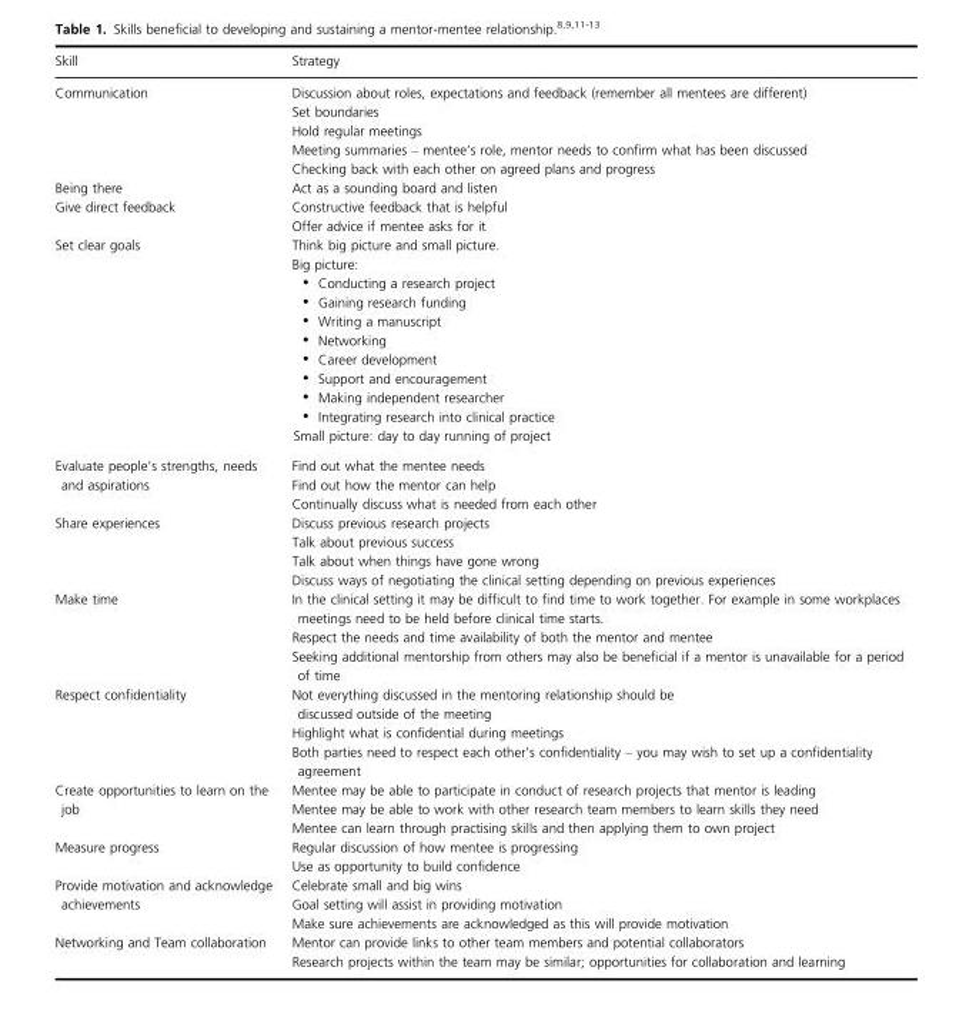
<table><thead><tr><td>Skill</td><td>Strategy</td></tr></thead><tbody><tr><td>Communication</td><td>Discussion about roles, expectations and feedback (remember all mentees are different) Set boundaries Hold regular meetings Meeting summaries – mentee’s role, mentor needs to confirm what has been discussed Checking back with each other on agreed plans and progress</td></tr><tr><td>Being there</td><td>Act as a sounding board and listen</td></tr><tr><td>Give direct feedback</td><td>Constructive feedback that is helpful Offer advice if mentee asks for it</td></tr><tr><td>Set clear goals</td><td>Think big picture and small picture. Big picture: • Conducting a research project • Gaining research funding • Writing a manuscript • Networking • Career development • Support and encouragement • Making independent researcher • Integrating research into clinical practice Small picture: day to day running of project</td></tr><tr><td>Evaluate people’s strengths, needs and aspirations</td><td>Find out what the mentee needs Find out how the mentor can help Continually discuss what is needed from each other</td></tr><tr><td>Share experiences</td><td>Discuss previous research projects Talk about previous success Talk about when things have gone wrong Discuss ways of negotiating the clinical setting depending on previous experiences</td></tr><tr><td>Make time</td><td>In the clinical setting it may be difficult to find time to work together. For example in some workplaces meetings need to be held before clinical time starts. Respect the needs and time availability of both the mentor and mentee Seeking additional mentorship from others may also be beneficial if a mentor is unavailable for a period of time</td></tr><tr><td>Respect confidentiality</td><td>Not everything discussed in the mentoring relationship should be discussed outside of the meeting Highlight what is confidential during meetings Both parties need to respect each other’s confidentiality – you may wish to set up a confidentiality agreement</td></tr><tr><td>Create opportunities to learn on the job</td><td>Mentee may be able to participate in conduct of research projects that mentor is leading Mentee may be able to work with other research team members to learn skills they need Mentee can learn through practising skills and then applying them to own project</td></tr><tr><td>Measure progress</td><td>Regular discussion of how mentee is progressing Use as opportunity to build confidence</td></tr><tr><td>Provide motivation and acknowledge achievements</td><td>Celebrate small and big wins Goal setting will assist in providing motivation Make sure achievements are acknowledged as this will provide motivation</td></tr><tr><td>Networking and Team collaboration</td><td>Mentor can provide links to other team members and potential collaborators Research projects within the team may be similar; opportunities for collaboration and learning</td></tr></tbody></table>